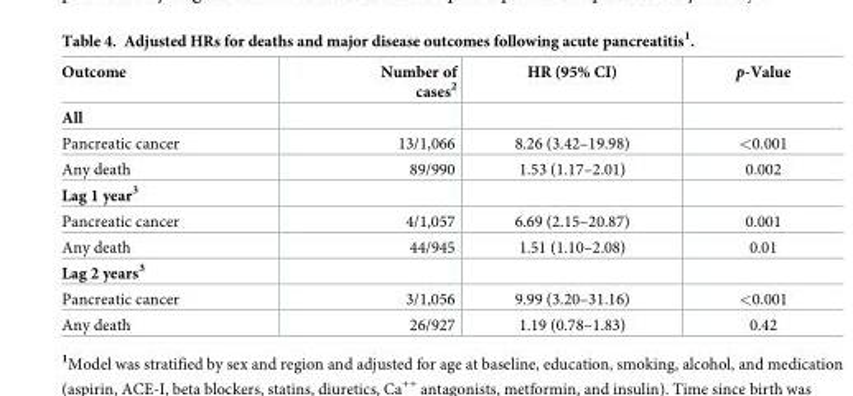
<table><thead><tr><td>Outcome</td><td>Number of cases<sup>2</sup></td><td>HR (95% CI)</td><td>p-Value</td></tr></thead><tbody><tr><td colspan="4">All</td></tr><tr><td>Pancreatic cancer</td><td>13/1,066</td><td>8.26 (3.42–19.98)</td><td>&lt;0.001</td></tr><tr><td>Any death</td><td>89/990</td><td>1.53 (1.17–2.01)</td><td>0.002</td></tr><tr><td colspan="4">Lag 1 year<sup>3</sup></td></tr><tr><td>Pancreatic cancer</td><td>4/1,057</td><td>6.69 (2.15–20.87)</td><td>0.001</td></tr><tr><td>Any death</td><td>44/945</td><td>1.51 (1.10–2.08)</td><td>0.01</td></tr><tr><td colspan="4">Lag 2 years<sup>3</sup></td></tr><tr><td>Pancreatic cancer</td><td>3/1,056</td><td>9.99 (3.20–31.16)</td><td>&lt;0.001</td></tr><tr><td>Any death</td><td>26/927</td><td>1.19 (0.78–1.83)</td><td>0.42</td></tr></tbody></table>